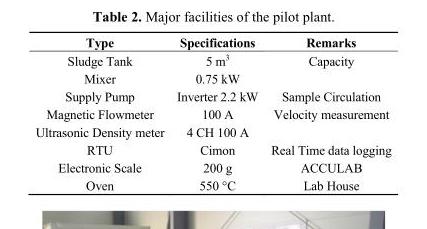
<table><thead><tr><td>Type</td><td>Specifications</td><td>Remarks</td></tr></thead><tbody><tr><td>Sludge Tank</td><td>5 m<sup>3</sup></td><td>Capacity</td></tr><tr><td>Mixer</td><td>0.75 kW</td><td></td></tr><tr><td>Supply Pump</td><td>Inverter 2.2 kW</td><td>Sample Circulation</td></tr><tr><td>Magnetic Flowmeter</td><td>100 A</td><td>Velocity measurement</td></tr><tr><td>Ultrasonic Density meter</td><td>4 CH 100 A</td><td></td></tr><tr><td>RTU</td><td>Cimon</td><td>Real Time data logging</td></tr><tr><td>Electronic Scale</td><td>200 g</td><td>ACCULAB</td></tr><tr><td>Oven</td><td>550 °C</td><td>Lab House</td></tr></tbody></table>